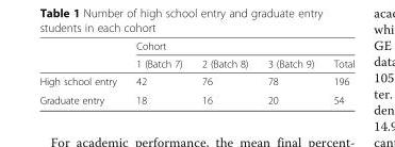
<table><thead><tr><td rowspan="2"></td><td colspan="4">Cohort</td></tr><tr><td>1 (Batch 7)</td><td>2 (Batch 8)</td><td>3 (Batch 9)</td><td>Total</td></tr></thead><tbody><tr><td>High school entry</td><td>42</td><td>76</td><td>78</td><td>196</td></tr><tr><td>Graduate entry</td><td>18</td><td>16</td><td>20</td><td>54</td></tr></tbody></table>